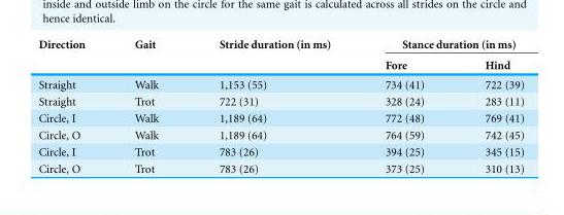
<table><thead><tr><td rowspan="2">Direction</td><td rowspan="2">Gait</td><td rowspan="2">Stride duration (in ms)</td><td colspan="2">Stance duration (in ms)</td></tr><tr><td>Fore</td><td>Hind</td></tr></thead><tbody><tr><td>Straight</td><td>Walk</td><td>1,153 (55)</td><td>734 (41)</td><td>722 (39)</td></tr><tr><td>Straight</td><td>Trot</td><td>722 (31)</td><td>328 (24)</td><td>283 (11)</td></tr><tr><td>Circle, I</td><td>Walk</td><td>1,189 (64)</td><td>772 (48)</td><td>769 (41)</td></tr><tr><td>Circle, O</td><td>Walk</td><td>1,189 (64)</td><td>764 (59)</td><td>742 (45)</td></tr><tr><td>Circle, I</td><td>Trot</td><td>783 (26)</td><td>394 (25)</td><td>345 (15)</td></tr><tr><td>Circle, O</td><td>Trot</td><td>783 (26)</td><td>373 (25)</td><td>310 (13)</td></tr></tbody></table>